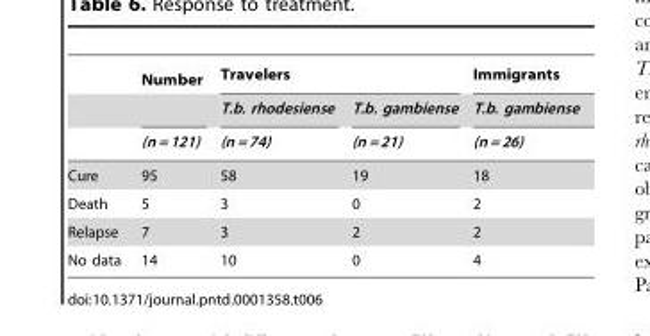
<table><thead><tr><td rowspan="3"></td><td rowspan="3">Number (n = 121)</td><td colspan="2">Travelers</td><td rowspan="3">Immigrants T.b. gambiense (n = 26)</td></tr><tr><td rowspan="2">T.b. rhodesiense (n = 74)</td><td rowspan="2">T.b. gambiense (n = 21)</td></tr><tr></tr></thead><tbody><tr><td>Cure</td><td>95</td><td>58</td><td>19</td><td>18</td></tr><tr><td>Death</td><td>5</td><td>3</td><td>0</td><td>2</td></tr><tr><td>Relapse</td><td>7</td><td>3</td><td>2</td><td>2</td></tr><tr><td>No data</td><td>14</td><td>10</td><td>0</td><td>4</td></tr></tbody></table>